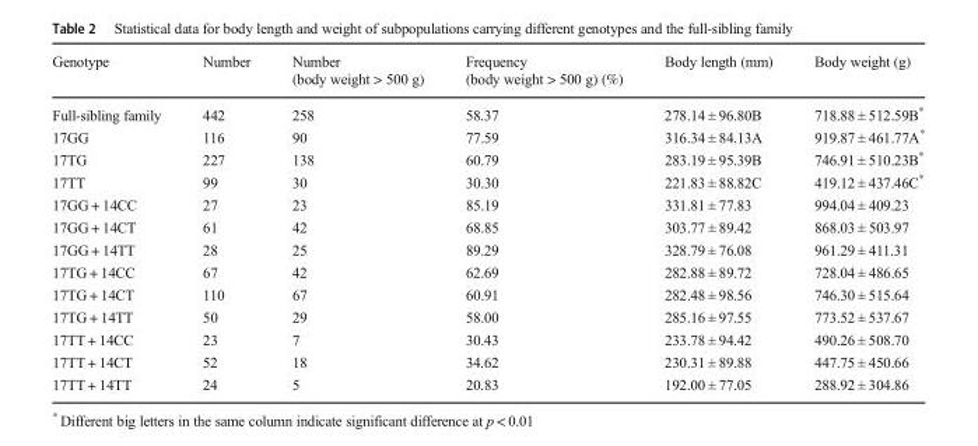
<table><thead><tr><td>Genotype</td><td>Number</td><td>Number (body weight &gt; 500 g)</td><td>Frequency (body weight &gt; 500 g) (%)</td><td>Body length (mm)</td><td>Body weight (g)</td></tr></thead><tbody><tr><td>Full-sibling family</td><td>442</td><td>258</td><td>58.37</td><td>278.14 ± 96.80B</td><td>718.88 ± 512.59B*</td></tr><tr><td>17GG</td><td>116</td><td>90</td><td>77.59</td><td>316.34 ± 84.13A</td><td>919.87 ± 461.77A*</td></tr><tr><td>17TG</td><td>227</td><td>138</td><td>60.79</td><td>283.19 ± 95.39B</td><td>746.91 ± 510.23B*</td></tr><tr><td>17TT</td><td>99</td><td>30</td><td>30.30</td><td>221.83 ± 88.82C</td><td>419.12 ± 437.46C*</td></tr><tr><td>17GG + 14CC</td><td>27</td><td>23</td><td>85.19</td><td>331.81 ± 77.83</td><td>994.04 ± 409.23</td></tr><tr><td>17GG + 14CT</td><td>61</td><td>42</td><td>68.85</td><td>303.77 ± 89.42</td><td>868.03 ± 503.97</td></tr><tr><td>17GG + 14TT</td><td>28</td><td>25</td><td>89.29</td><td>328.79 ± 76.08</td><td>961.29 ± 411.31</td></tr><tr><td>17TG + 14CC</td><td>67</td><td>42</td><td>62.69</td><td>282.88 ± 89.72</td><td>728.04 ± 486.65</td></tr><tr><td>17TG + 14CT</td><td>110</td><td>67</td><td>60.91</td><td>282.48 ± 98.56</td><td>746.30 ± 515.64</td></tr><tr><td>17TG + 14TT</td><td>50</td><td>29</td><td>58.00</td><td>285.16 ± 97.55</td><td>773.52 ± 537.67</td></tr><tr><td>17TT + 14CC</td><td>23</td><td>7</td><td>30.43</td><td>233.78 ± 94.42</td><td>490.26 ± 508.70</td></tr><tr><td>17TT + 14CT</td><td>52</td><td>18</td><td>34.62</td><td>230.31 ± 89.88</td><td>447.75 ± 450.66</td></tr><tr><td>17TT + 14TT</td><td>24</td><td>5</td><td>20.83</td><td>192.00 ± 77.05</td><td>288.92 ± 304.86</td></tr></tbody></table>